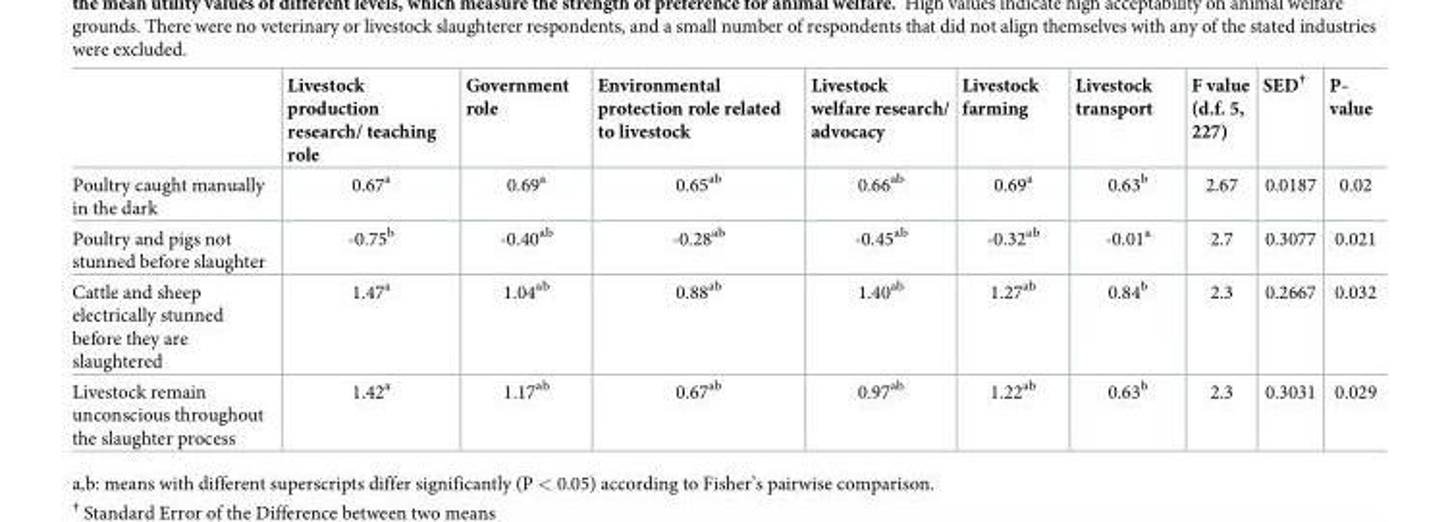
<table><thead><tr><td></td><td>Livestock production research/ teaching role</td><td>Government role</td><td>Environmental protection role related to livestock</td><td>Livestock welfare research/ advocacy</td><td>Livestock farming</td><td>Livestock transport</td><td>F value (d.f. 5, 227)</td><td>SED<sup>†</sup></td><td>P- value</td></tr></thead><tbody><tr><td>Poultry caught manually in the dark</td><td>0.67<sup>a</sup></td><td>0.69<sup>a</sup></td><td>0.65<sup>ab</sup></td><td>0.66<sup>ab</sup></td><td>0.69<sup>a</sup></td><td>0.63<sup>b</sup></td><td>2.67</td><td>0.0187</td><td>0.02</td></tr><tr><td>Poultry and pigs not stunned before slaughter</td><td>-0.75<sup>b</sup></td><td>-0.40<sup>ab</sup></td><td>-0.28<sup>ab</sup></td><td>-0.45<sup>ab</sup></td><td>-0.32<sup>ab</sup></td><td>-0.01<sup>a</sup></td><td>2.7</td><td>0.3077</td><td>0.021</td></tr><tr><td>Cattle and sheep electrically stunned before they are slaughtered</td><td>1.47<sup>a</sup></td><td>1.04<sup>ab</sup></td><td>0.88<sup>ab</sup></td><td>1.40<sup>ab</sup></td><td>1.27<sup>ab</sup></td><td>0.84<sup>b</sup></td><td>2.3</td><td>0.2667</td><td>0.032</td></tr><tr><td>Livestock remain unconscious throughout the slaughter process</td><td>1.42<sup>a</sup></td><td>1.17<sup>ab</sup></td><td>0.67<sup>ab</sup></td><td>0.97<sup>ab</sup></td><td>1.22<sup>ab</sup></td><td>0.63<sup>b</sup></td><td>2.3</td><td>0.3031</td><td>0.029</td></tr></tbody></table>